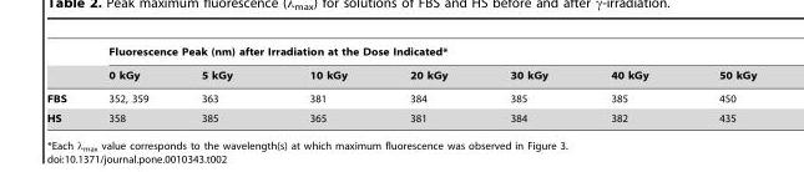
<table><thead><tr><td rowspan="2"></td><td colspan="7">Fluorescence Peak (nm) after Irradiation at the Dose Indicated*</td></tr><tr><td>0 kGy</td><td>5 kGy</td><td>10 kGy</td><td>20 kGy</td><td>30 kGy</td><td>40 kGy</td><td>50 kGy</td></tr></thead><tbody><tr><td>FBS</td><td>352, 359</td><td>363</td><td>381</td><td>384</td><td>385</td><td>385</td><td>450</td></tr><tr><td>HS</td><td>358</td><td>385</td><td>365</td><td>381</td><td>384</td><td>382</td><td>435</td></tr></tbody></table>